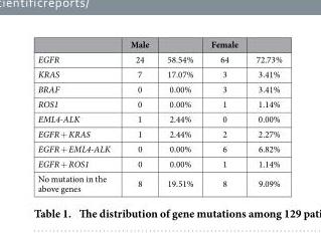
<table><thead><tr><td></td><td>Male</td><td></td><td>Female</td><td></td></tr></thead><tbody><tr><td>EGFR</td><td>24</td><td>58.54%</td><td>64</td><td>72.73%</td></tr><tr><td>KRAS</td><td>7</td><td>17.07%</td><td>3</td><td>3.41%</td></tr><tr><td>BRAF</td><td>0</td><td>0.00%</td><td>3</td><td>3.41%</td></tr><tr><td>ROS1</td><td>0</td><td>0.00%</td><td>1</td><td>1.14%</td></tr><tr><td>EML4-ALK</td><td>1</td><td>2.44%</td><td>0</td><td>0.00%</td></tr><tr><td>EGFR + KRAS</td><td>1</td><td>2.44%</td><td>2</td><td>2.27%</td></tr><tr><td>EGFR + EML4-ALK</td><td>0</td><td>0.00%</td><td>6</td><td>6.82%</td></tr><tr><td>EGFR + ROS1</td><td>0</td><td>0.00%</td><td>1</td><td>1.14%</td></tr><tr><td>No mutation in the above genes</td><td>8</td><td>19.51%</td><td>8</td><td>9.09%</td></tr></tbody></table>